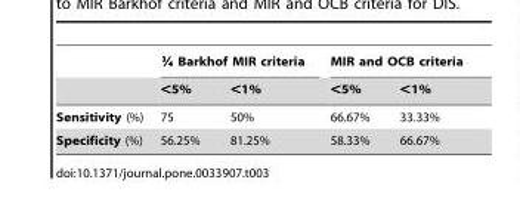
<table><thead><tr><td rowspan="2"></td><td colspan="2">L Barkhof MIR criteria</td><td colspan="2">MIR and OCB criteria</td></tr><tr><td>&lt;5%</td><td>&lt;1%</td><td>&lt;5%</td><td>&lt;1%</td></tr></thead><tbody><tr><td>Sensitivity (%)</td><td>75</td><td>50%</td><td>66.67%</td><td>33.33%</td></tr><tr><td>Specificity (%)</td><td>56.25%</td><td>81.25%</td><td>58.33%</td><td>66.67%</td></tr></tbody></table>